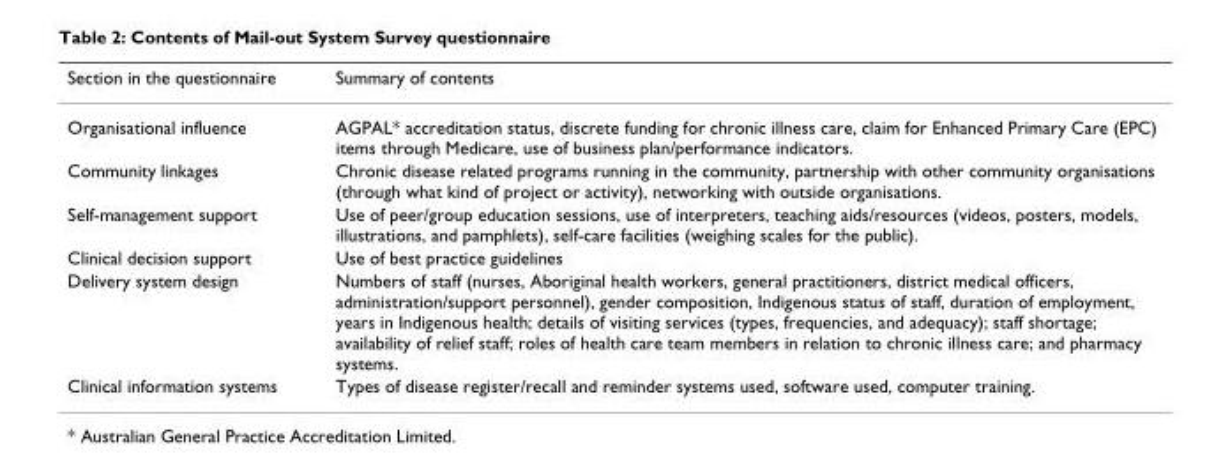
<table><thead><tr><td>Section in the questionnaire</td><td>Summary of contents</td></tr></thead><tbody><tr><td>Organisational influence</td><td>AGPAL* accreditation status, discrete funding for chronic illness care, claim for Enhanced Primary Care (EPC) items through Medicare, use of business plan/performance indicators.</td></tr><tr><td>Community linkages</td><td>Chronic disease related programs running in the community, partnership with other community organisations (through what kind of project or activity), networking with outside organisations.</td></tr><tr><td>Self-management support</td><td>Use of peer/group education sessions, use of interpreters, teaching aids/resources (videos, posters, models, illustrations, and pamphlets), self-care facilities (weighing scales for the public).</td></tr><tr><td>Clinical decision support</td><td>Use of best practice guidelines</td></tr><tr><td>Delivery system design</td><td>Numbers of staff (nurses, Aboriginal health workers, general practitioners, district medical officers, administration/support personnel), gender composition, Indigenous status of staff, duration of employment, years in Indigenous health; details of visiting services (types, frequencies, and adequacy); staff shortage; availability of relief staff; roles of health care team members in relation to chronic illness care; and pharmacy systems.</td></tr><tr><td>Clinical information systems</td><td>Types of disease register/recall and reminder systems used, software used, computer training.</td></tr></tbody></table>